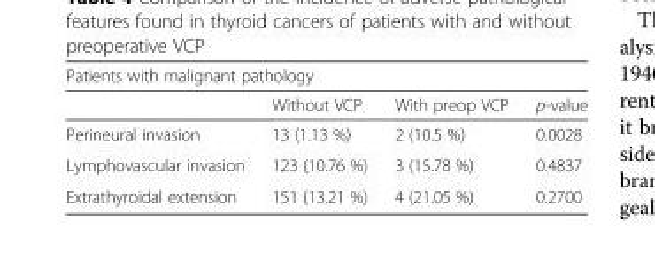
<table><thead><tr><td colspan="4">Patients with malignant pathology</td></tr><tr><td></td><td>Without VCP</td><td>With preop VCP</td><td>p-value</td></tr></thead><tbody><tr><td>Perineural invasion</td><td>13 (1.13 %)</td><td>2 (10.5 %)</td><td>0.0028</td></tr><tr><td>Lymphovascular invasion</td><td>123 (10.76 %)</td><td>3 (15.78 %)</td><td>0.4837</td></tr><tr><td>Extrathyroidal extension</td><td>151 (13.21 %)</td><td>4 (21.05 %)</td><td>0.2700</td></tr></tbody></table>